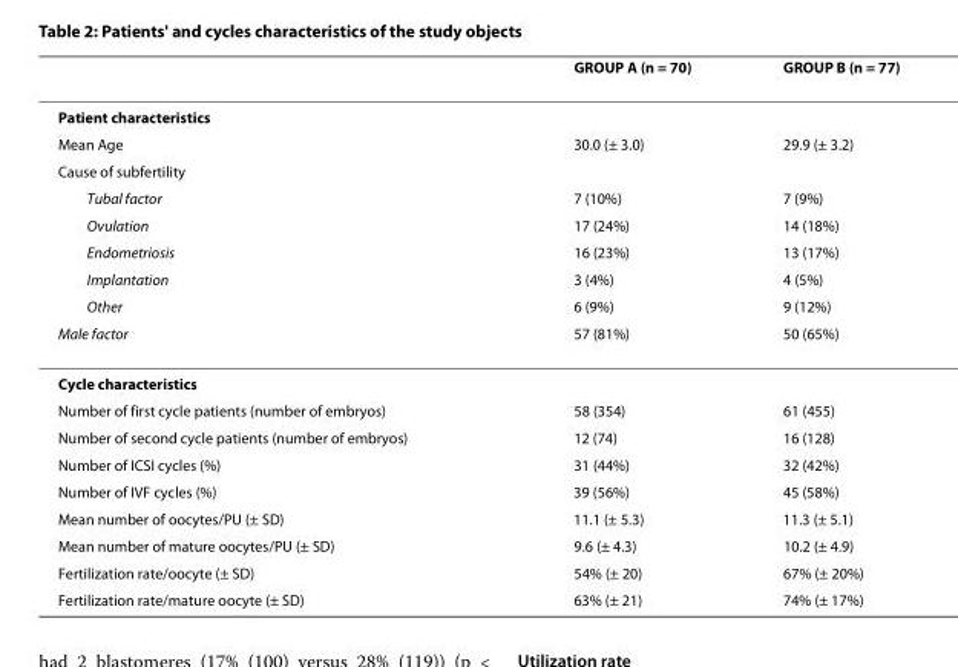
<table><thead><tr><td></td><td>GROUP A (n = 70)</td><td>GROUP B (n = 77)</td></tr></thead><tbody><tr><td colspan="3">Patient characteristics</td></tr><tr><td>Mean Age</td><td>30.0 (± 3.0)</td><td>29.9 (± 3.2)</td></tr><tr><td colspan="3">Cause of subfertility</td></tr><tr><td>Tubal factor</td><td>7 (10%)</td><td>7 (9%)</td></tr><tr><td>Ovulation</td><td>17 (24%)</td><td>14 (18%)</td></tr><tr><td>Endometriosis</td><td>16 (23%)</td><td>13 (17%)</td></tr><tr><td>Implantation</td><td>3 (4%)</td><td>4 (5%)</td></tr><tr><td>Other</td><td>6 (9%)</td><td>9 (12%)</td></tr><tr><td>Male factor</td><td>57 (81%)</td><td>50 (65%)</td></tr><tr><td colspan="3">Cycle characteristics</td></tr><tr><td>Number of first cycle patients (number of embryos)</td><td>58 (354)</td><td>61 (455)</td></tr><tr><td>Number of second cycle patients (number of embryos)</td><td>12 (74)</td><td>16 (128)</td></tr><tr><td>Number of ICSI cycles (%)</td><td>31 (44%)</td><td>32 (42%)</td></tr><tr><td>Number of IVF cycles (%)</td><td>39 (56%)</td><td>45 (58%)</td></tr><tr><td>Mean number of oocytes/PU (± SD)</td><td>11.1 (± 5.3)</td><td>11.3 (± 5.1)</td></tr><tr><td>Mean number of mature oocytes/PU (± SD)</td><td>9.6 (± 4.3)</td><td>10.2 (± 4.9)</td></tr><tr><td>Fertilization rate/oocyte (± SD)</td><td>54% (± 20)</td><td>67% (± 20%)</td></tr><tr><td>Fertilization rate/mature oocyte (± SD)</td><td>63% (± 21)</td><td>74% (± 17%)</td></tr></tbody></table>